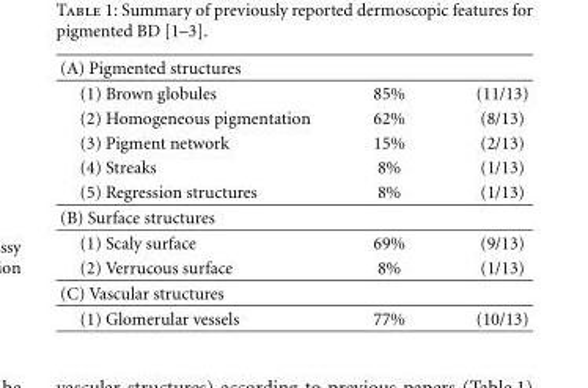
<table><thead><tr><td>(A) Pigmented structures</td><td></td><td></td></tr></thead><tbody><tr><td>(1) Brown globules</td><td>85%</td><td>(11/13)</td></tr><tr><td>(2) Homogeneous pigmentation</td><td>62%</td><td>(8/13)</td></tr><tr><td>(3) Pigment network</td><td>15%</td><td>(2/13)</td></tr><tr><td>(4) Streaks</td><td>8%</td><td>(1/13)</td></tr><tr><td>(5) Regression structures</td><td>8%</td><td>(1/13)</td></tr><tr><td colspan="3">(B) Surface structures</td></tr><tr><td>(1) Scaly surface</td><td>69%</td><td>(9/13)</td></tr><tr><td>(2) Verrucous surface</td><td>8%</td><td>(1/13)</td></tr><tr><td colspan="3">(C) Vascular structures</td></tr><tr><td>(1) Glomerular vessels</td><td>77%</td><td>(10/13)</td></tr></tbody></table>